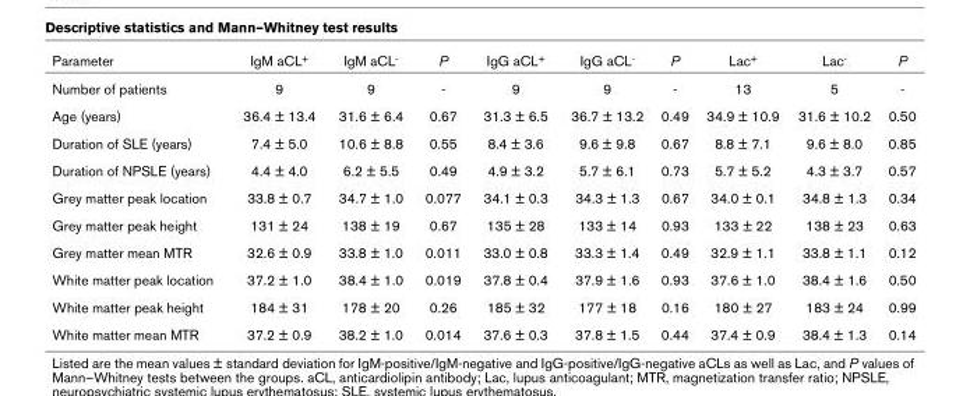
<table><thead><tr><td>Parameter</td><td>IgM aCL+</td><td>IgM aCL-</td><td>P</td><td>IgG aCL+</td><td>IgG aCL-</td><td>P</td><td>Lac+</td><td>Lac-</td><td>P</td></tr></thead><tbody><tr><td>Number of patients</td><td>9</td><td>9</td><td>-</td><td>9</td><td>9</td><td>-</td><td>13</td><td>5</td><td>-</td></tr><tr><td>Age (years)</td><td>36.4 ± 13.4</td><td>31.6 ± 6.4</td><td>0.67</td><td>31.3 ± 6.5</td><td>36.7 ± 13.2</td><td>0.49</td><td>34.9 ± 10.9</td><td>31.6 ± 10.2</td><td>0.50</td></tr><tr><td>Duration of SLE (years)</td><td>7.4 ± 5.0</td><td>10.6 ± 8.8</td><td>0.55</td><td>8.4 ± 3.6</td><td>9.6 ± 9.8</td><td>0.67</td><td>8.8 ± 7.1</td><td>9.6 ± 8.0</td><td>0.85</td></tr><tr><td>Duration of NPSLE (years)</td><td>4.4 ± 4.0</td><td>6.2 ± 5.5</td><td>0.49</td><td>4.9 ± 3.2</td><td>5.7 ± 6.1</td><td>0.73</td><td>5.7 ± 5.2</td><td>4.3 ± 3.7</td><td>0.57</td></tr><tr><td>Grey matter peak location</td><td>33.8 ± 0.7</td><td>34.7 ± 1.0</td><td>0.077</td><td>34.1 ± 0.3</td><td>34.3 ± 1.3</td><td>0.67</td><td>34.0 ± 0.1</td><td>34.8 ± 1.3</td><td>0.34</td></tr><tr><td>Grey matter peak height</td><td>131 ± 24</td><td>138 ± 19</td><td>0.67</td><td>135 ± 28</td><td>133 ± 14</td><td>0.93</td><td>133 ± 22</td><td>138 ± 23</td><td>0.63</td></tr><tr><td>Grey matter mean MTR</td><td>32.6 ± 0.9</td><td>33.8 ± 1.0</td><td>0.011</td><td>33.0 ± 0.8</td><td>33.3 ± 1.4</td><td>0.49</td><td>32.9 ± 1.1</td><td>33.8 ± 1.1</td><td>0.12</td></tr><tr><td>White matter peak location</td><td>37.2 ± 1.0</td><td>38.4 ± 1.0</td><td>0.019</td><td>37.8 ± 0.4</td><td>37.9 ± 1.6</td><td>0.93</td><td>37.6 ± 1.0</td><td>38.4 ± 1.6</td><td>0.50</td></tr><tr><td>White matter peak height</td><td>184 ± 31</td><td>178 ± 20</td><td>0.26</td><td>185 ± 32</td><td>177 ± 18</td><td>0.16</td><td>180 ± 27</td><td>183 ± 24</td><td>0.99</td></tr><tr><td>White matter mean MTR</td><td>37.2 ± 0.9</td><td>38.2 ± 1.0</td><td>0.014</td><td>37.6 ± 0.3</td><td>37.8 ± 1.5</td><td>0.44</td><td>37.4 ± 0.9</td><td>38.4 ± 1.3</td><td>0.14</td></tr></tbody></table>